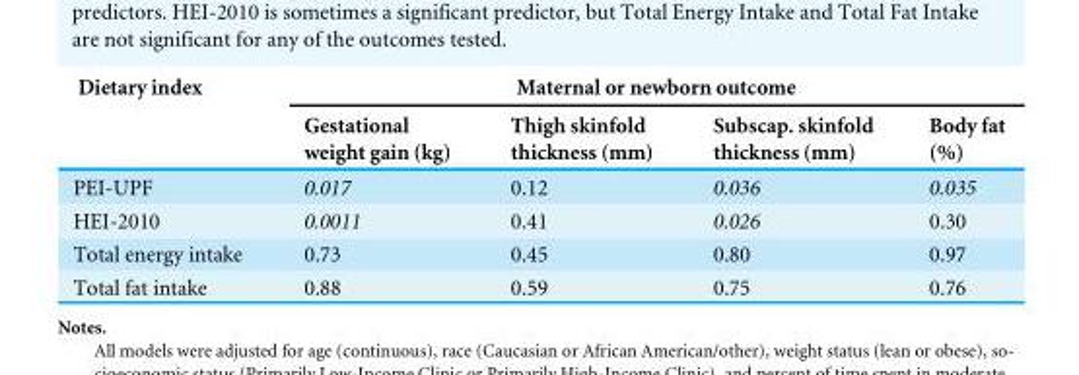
<table><thead><tr><td rowspan="2">Dietary index</td><td colspan="4">Maternal or newborn outcome</td></tr><tr><td>Gestational weight gain (kg)</td><td>Thigh skinfold thickness (mm)</td><td>Subscap. skinfold thickness (mm)</td><td>Body fat (%)</td></tr></thead><tbody><tr><td>PEI-UPF</td><td>0.017</td><td>0.12</td><td>0.036</td><td>0.035</td></tr><tr><td>HEI-2010</td><td>0.0011</td><td>0.41</td><td>0.026</td><td>0.30</td></tr><tr><td>Total energy intake</td><td>0.73</td><td>0.45</td><td>0.80</td><td>0.97</td></tr><tr><td>Total fat intake</td><td>0.88</td><td>0.59</td><td>0.75</td><td>0.76</td></tr></tbody></table>